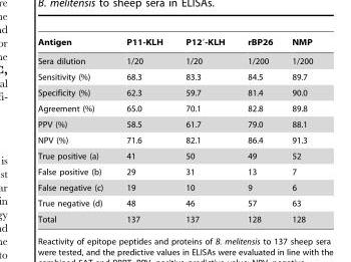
<table><thead><tr><td>Antigen</td><td>P11-KLH</td><td>P12′-KLH</td><td>rBP26</td><td>NMP</td></tr></thead><tbody><tr><td>Sera dilution</td><td>1/20</td><td>1/20</td><td>1/200</td><td>1/200</td></tr><tr><td>Sensitivity (%)</td><td>68.3</td><td>83.3</td><td>84.5</td><td>89.7</td></tr><tr><td>Specificity (%)</td><td>62.3</td><td>59.7</td><td>81.4</td><td>90.0</td></tr><tr><td>Agreement (%)</td><td>65.0</td><td>70.1</td><td>82.8</td><td>89.8</td></tr><tr><td>PPV (%)</td><td>58.5</td><td>61.7</td><td>79.0</td><td>88.1</td></tr><tr><td>NPV (%)</td><td>71.6</td><td>82.1</td><td>86.4</td><td>91.3</td></tr><tr><td>True positive (a)</td><td>41</td><td>50</td><td>49</td><td>52</td></tr><tr><td>False positive (b)</td><td>29</td><td>31</td><td>13</td><td>7</td></tr><tr><td>False negative (c)</td><td>19</td><td>10</td><td>9</td><td>6</td></tr><tr><td>True negative (d)</td><td>48</td><td>46</td><td>57</td><td>63</td></tr><tr><td>Total</td><td>137</td><td>137</td><td>128</td><td>128</td></tr></tbody></table>